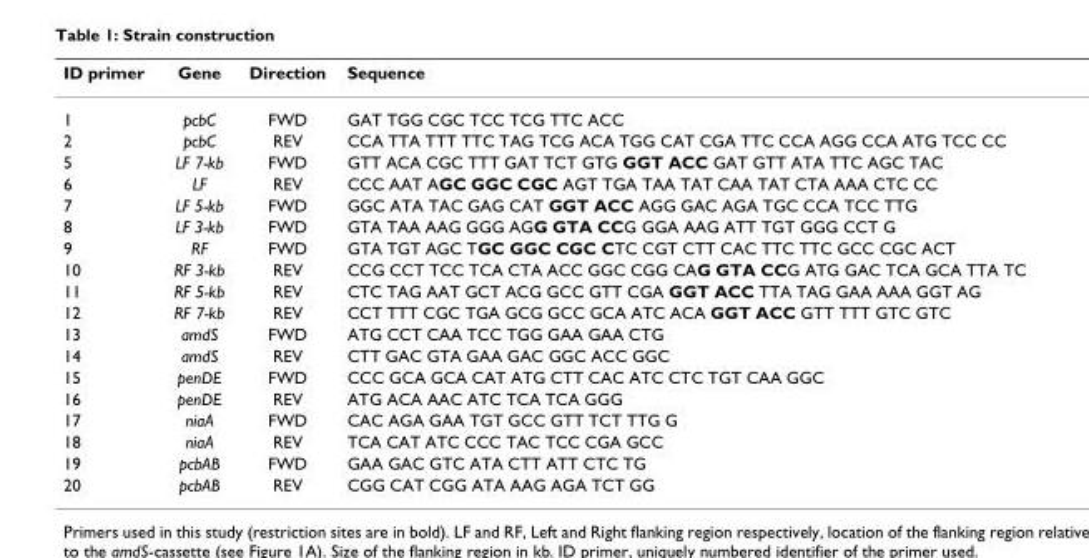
<table><thead><tr><td>ID primer</td><td>Gene</td><td>Direction</td><td>Sequence</td></tr></thead><tbody><tr><td>1</td><td>pcbC</td><td>FWD</td><td>GAT TGG CGC TCC TCG TTC ACC</td></tr><tr><td>2</td><td>pcbC</td><td>REV</td><td>CCA TTA TTT TTC TAG TCG ACA TGG CAT CGA TTC CCA AGG CCA ATG TCC CC</td></tr><tr><td>5</td><td>LF 7-kb</td><td>FWD</td><td>GTT ACA CGC TTT GAT TCT GTG GGT ACC GAT GTT ATA TTC AGC TAC</td></tr><tr><td>6</td><td>LF</td><td>REV</td><td>CCC AAT AGC GGC CGC AGT TGA TAA TAT CAA TAT CTA AAA CTC CC</td></tr><tr><td>7</td><td>LF 5-kb</td><td>FWD</td><td>GGC ATA TAC GAG CAT GGT ACC AGG GAC AGA TGC CCA TCC TTG</td></tr><tr><td>8</td><td>LF 3-kb</td><td>FWD</td><td>GTA TAA AAG GGG AGG GTA CCG GGA AAG ATT TGT GGG CCT G</td></tr><tr><td>9</td><td>RF</td><td>FWD</td><td>GTA TGT AGC TGC GGC CGC CTC CGT CTT CAC TTC TTC GCC CGC ACT</td></tr><tr><td>10</td><td>RF 3-kb</td><td>REV</td><td>CCG CCT TCC TCA CTA ACC GGC CGG CAG GTA CCG ATG GAC TCA GCA TTA TC</td></tr><tr><td>11</td><td>RF 5-kb</td><td>REV</td><td>CTC TAG AAT GCT ACG GCC GTT CGA GGT ACC TTA TAG GAA AAA GGT AG</td></tr><tr><td>12</td><td>RF 7-kb</td><td>REV</td><td>CCT TTT CGC TGA GCG GCC GCA ATC ACA GGT ACC GTT TTT GTC GTC</td></tr><tr><td>13</td><td>amdS</td><td>FWD</td><td>ATG CCT CAA TCC TGG GAA GAA CTG</td></tr><tr><td>14</td><td>amdS</td><td>REV</td><td>CTT GAC GTA GAA GAC GGC ACC GGC</td></tr><tr><td>15</td><td>penDE</td><td>FWD</td><td>CCC GCA GCA CAT ATG CTT CAC ATC CTC TGT CAA GGC</td></tr><tr><td>16</td><td>penDE</td><td>REV</td><td>ATG ACA AAC ATC TCA TCA GGG</td></tr><tr><td>17</td><td>niaA</td><td>FWD</td><td>CAC AGA GAA TGT GCC GTT TCT TTG G</td></tr><tr><td>18</td><td>niaA</td><td>REV</td><td>TCA CAT ATC CCC TAC TCC CGA GCC</td></tr><tr><td>19</td><td>pcbAB</td><td>FWD</td><td>GAA GAC GTC ATA CTT ATT CTC TG</td></tr><tr><td>20</td><td>pcbAB</td><td>REV</td><td>CGG CAT CGG ATA AAG AGA TCT GG</td></tr></tbody></table>